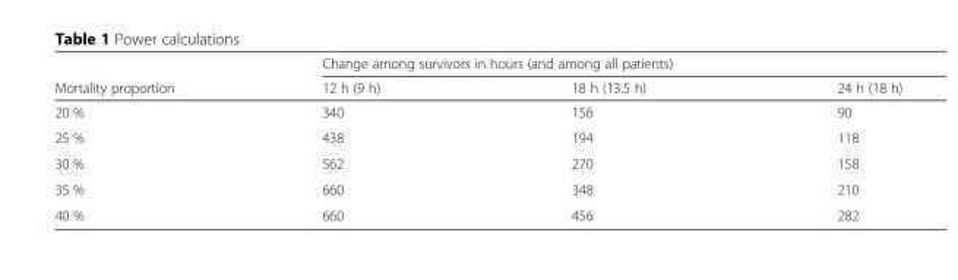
<table><thead><tr><td rowspan="2">Mortality proportion</td><td colspan="3">Change among survivors in hours (and among all patients)</td></tr><tr><td>12 h (9 h)</td><td>18 h (13.5 h)</td><td>24 h (18 h)</td></tr></thead><tbody><tr><td>20 %</td><td>340</td><td>156</td><td>90</td></tr><tr><td>25 %</td><td>438</td><td>194</td><td>118</td></tr><tr><td>30 %</td><td>562</td><td>270</td><td>158</td></tr><tr><td>35 %</td><td>660</td><td>348</td><td>210</td></tr><tr><td>40 %</td><td>660</td><td>456</td><td>282</td></tr></tbody></table>